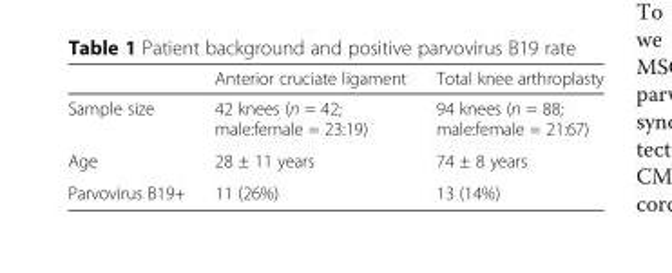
<table><thead><tr><td></td><td>Anterior cruciate ligament</td><td>Total knee arthroplasty</td></tr></thead><tbody><tr><td>Sample size</td><td>42 knees (n = 42; male:female = 23:19)</td><td>94 knees (n = 88; male:female = 21:67)</td></tr><tr><td>Age</td><td>28 ± 11 years</td><td>74 ± 8 years</td></tr><tr><td>Parvovirus B19+</td><td>11 (26%)</td><td>13 (14%)</td></tr></tbody></table>